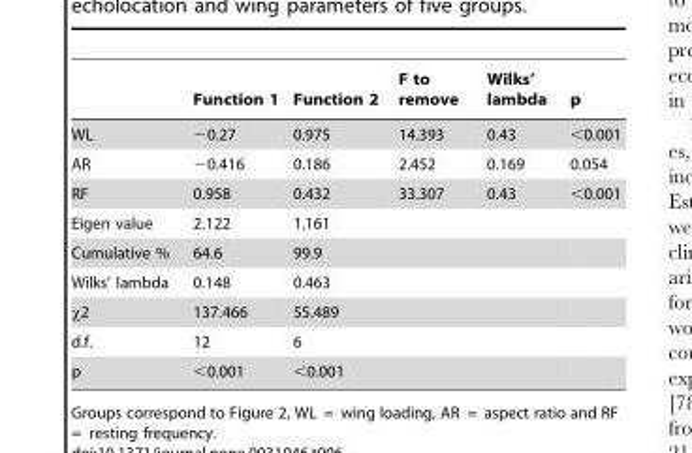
<table><thead><tr><td></td><td>Function 1</td><td>Function 2</td><td>F to remove</td><td>Wilks’ lambda</td><td>p</td></tr></thead><tbody><tr><td>WL</td><td>−0.27</td><td>0.975</td><td>14.393</td><td>0.43</td><td>&lt;0.001</td></tr><tr><td>AR</td><td>−0.416</td><td>0.186</td><td>2.452</td><td>0.169</td><td>0.054</td></tr><tr><td>RF</td><td>0.958</td><td>0.432</td><td>33.307</td><td>0.43</td><td>&lt;0.001</td></tr><tr><td>Eigen value</td><td>2.122</td><td>1.161</td><td></td><td></td><td></td></tr><tr><td>Cumulative %</td><td>64.6</td><td>99.9</td><td></td><td></td><td></td></tr><tr><td>Wilks’ lambda</td><td>0.148</td><td>0.463</td><td></td><td></td><td></td></tr><tr><td>χ<sup>2</sup></td><td>137.466</td><td>55.489</td><td></td><td></td><td></td></tr><tr><td>d.f.</td><td>12</td><td>6</td><td></td><td></td><td></td></tr><tr><td>p</td><td>&lt;0.001</td><td>&lt;0.001</td><td></td><td></td><td></td></tr></tbody></table>